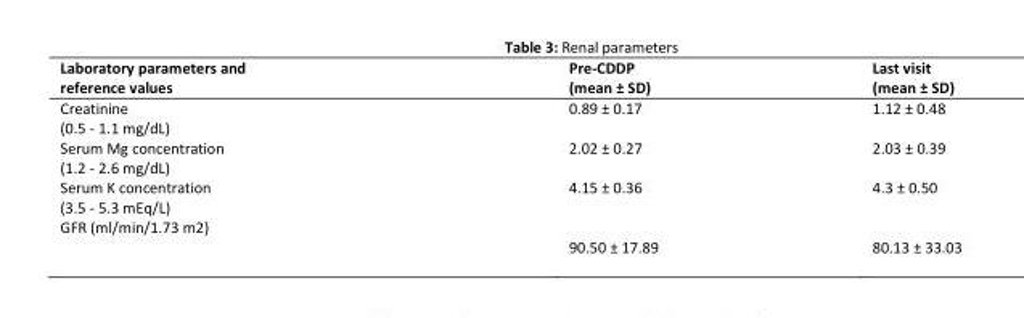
<table><thead><tr><td>Laboratory parameters and reference values</td><td>Pre-CDDP (mean ± SD)</td><td>Last visit (mean ± SD)</td></tr></thead><tbody><tr><td>Creatinine (0.5 - 1.1 mg/dL)</td><td>0.89 ± 0.17</td><td>1.12 ± 0.48</td></tr><tr><td>Serum Mg concentration (1.2 - 2.6 mg/dL)</td><td>2.02 ± 0.27</td><td>2.03 ± 0.39</td></tr><tr><td>Serum K concentration (3.5 - 5.3 mEq/L)</td><td>4.15 ± 0.36</td><td>4.3 ± 0.50</td></tr><tr><td>GFR (ml/min/1.73 m2)</td><td>90.50 ± 17.89</td><td>80.13 ± 33.03</td></tr></tbody></table>